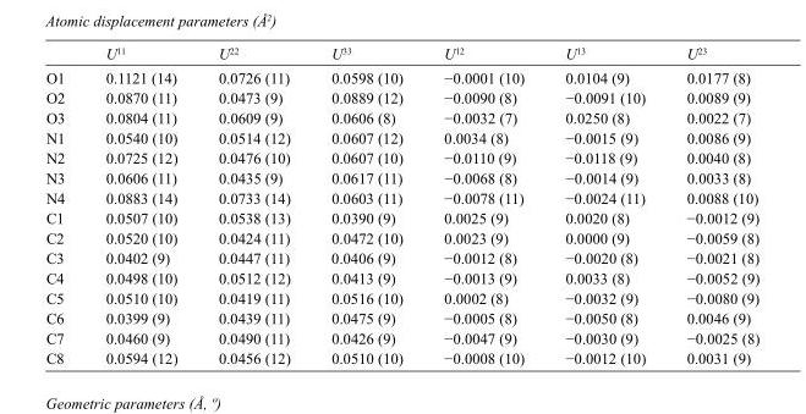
<table><thead><tr><td></td><td>U<sup>11</sup></td><td>U<sup>22</sup></td><td>U<sup>33</sup></td><td>U<sup>12</sup></td><td>U<sup>13</sup></td><td>U<sup>23</sup></td></tr></thead><tbody><tr><td>O1</td><td>0.1121 (14)</td><td>0.0726 (11)</td><td>0.0598 (10)</td><td>−0.0001 (10)</td><td>0.0104 (9)</td><td>0.0177 (8)</td></tr><tr><td>O2</td><td>0.0870 (11)</td><td>0.0473 (9)</td><td>0.0889 (12)</td><td>−0.0090 (8)</td><td>−0.0091 (10)</td><td>0.0089 (9)</td></tr><tr><td>O3</td><td>0.0804 (11)</td><td>0.0609 (9)</td><td>0.0606 (8)</td><td>−0.0032 (7)</td><td>0.0250 (8)</td><td>0.0022 (7)</td></tr><tr><td>N1</td><td>0.0540 (10)</td><td>0.0514 (12)</td><td>0.0607 (12)</td><td>0.0034 (8)</td><td>−0.0015 (9)</td><td>0.0086 (9)</td></tr><tr><td>N2</td><td>0.0725 (12)</td><td>0.0476 (10)</td><td>0.0607 (10)</td><td>−0.0110 (9)</td><td>−0.0118 (9)</td><td>0.0040 (8)</td></tr><tr><td>N3</td><td>0.0606 (11)</td><td>0.0435 (9)</td><td>0.0617 (11)</td><td>−0.0068 (8)</td><td>−0.0014 (9)</td><td>0.0033 (8)</td></tr><tr><td>N4</td><td>0.0883 (14)</td><td>0.0733 (14)</td><td>0.0603 (11)</td><td>−0.0078 (11)</td><td>−0.0024 (11)</td><td>0.0088 (10)</td></tr><tr><td>C1</td><td>0.0507 (10)</td><td>0.0538 (13)</td><td>0.0390 (9)</td><td>0.0025 (9)</td><td>0.0020 (8)</td><td>−0.0012 (9)</td></tr><tr><td>C2</td><td>0.0520 (10)</td><td>0.0424 (11)</td><td>0.0472 (10)</td><td>0.0023 (9)</td><td>0.0000 (9)</td><td>−0.0059 (8)</td></tr><tr><td>C3</td><td>0.0402 (9)</td><td>0.0447 (11)</td><td>0.0406 (9)</td><td>−0.0012 (8)</td><td>−0.0020 (8)</td><td>−0.0021 (8)</td></tr><tr><td>C4</td><td>0.0498 (10)</td><td>0.0512 (12)</td><td>0.0413 (9)</td><td>−0.0013 (9)</td><td>0.0033 (8)</td><td>−0.0052 (9)</td></tr><tr><td>C5</td><td>0.0510 (10)</td><td>0.0419 (11)</td><td>0.0516 (10)</td><td>0.0002 (8)</td><td>−0.0032 (9)</td><td>−0.0080 (9)</td></tr><tr><td>C6</td><td>0.0399 (9)</td><td>0.0439 (11)</td><td>0.0475 (9)</td><td>−0.0005 (8)</td><td>−0.0050 (8)</td><td>0.0046 (9)</td></tr><tr><td>C7</td><td>0.0460 (9)</td><td>0.0490 (11)</td><td>0.0426 (9)</td><td>−0.0047 (9)</td><td>−0.0030 (9)</td><td>−0.0025 (8)</td></tr><tr><td>C8</td><td>0.0594 (12)</td><td>0.0456 (12)</td><td>0.0510 (10)</td><td>−0.0008 (10)</td><td>−0.0012 (10)</td><td>0.0031 (9)</td></tr></tbody></table>